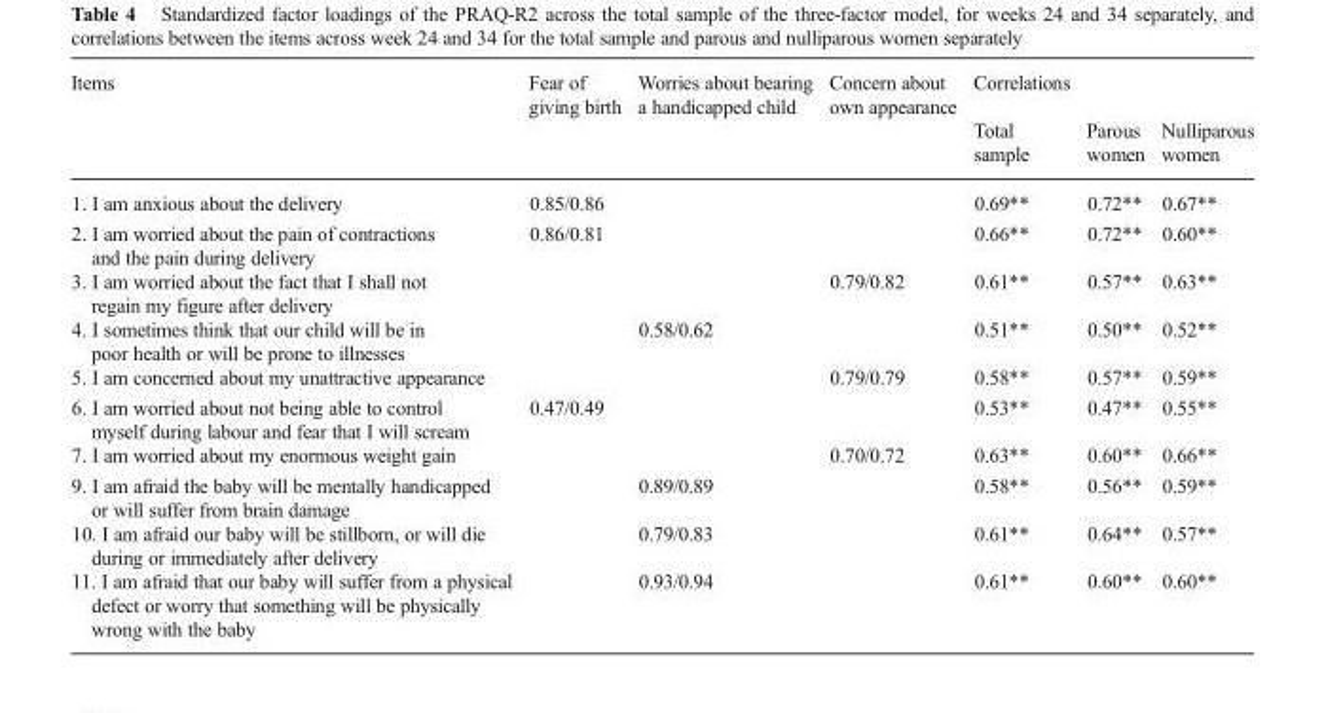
<table><thead><tr><td rowspan="2">Items</td><td rowspan="2">Fear of giving birth</td><td rowspan="2">Worries about bearing a handicapped child</td><td rowspan="2">Concern about own appearance</td><td rowspan="2">Correlations Total sample</td><td rowspan="2">Parous women</td><td rowspan="2">Nulliparous women</td></tr><tr></tr></thead><tbody><tr><td>1. I am anxious about the delivery</td><td>0.85/0.86</td><td></td><td></td><td>0.69**</td><td>0.72**</td><td>0.67**</td></tr><tr><td>2. I am worried about the pain of contractions and the pain during delivery</td><td>0.86/0.81</td><td></td><td></td><td>0.66**</td><td>0.72**</td><td>0.60**</td></tr><tr><td>3. I am worried about the fact that I shall not regain my figure after delivery</td><td></td><td></td><td>0.79/0.82</td><td>0.61**</td><td>0.57**</td><td>0.63**</td></tr><tr><td>4. I sometimes think that our child will be in poor health or will be prone to illnesses</td><td></td><td>0.58/0.62</td><td></td><td>0.51**</td><td>0.50**</td><td>0.52**</td></tr><tr><td>5. I am concerned about my unattractive appearance</td><td></td><td></td><td>0.79/0.79</td><td>0.58**</td><td>0.57**</td><td>0.59**</td></tr><tr><td>6. I am worried about not being able to control myself during labour and fear that I will scream</td><td>0.47/0.49</td><td></td><td></td><td>0.53**</td><td>0.47**</td><td>0.55**</td></tr><tr><td>7. I am worried about my enormous weight gain</td><td></td><td></td><td>0.70/0.72</td><td>0.63**</td><td>0.60**</td><td>0.66**</td></tr><tr><td>9. I am afraid the baby will be mentally handicapped or will suffer from brain damage</td><td></td><td>0.89/0.89</td><td></td><td>0.58**</td><td>0.56**</td><td>0.59**</td></tr><tr><td>10. I am afraid our baby will be stillborn, or will die during or immediately after delivery</td><td></td><td>0.79/0.83</td><td></td><td>0.61**</td><td>0.64**</td><td>0.57**</td></tr><tr><td>11. I am afraid that our baby will suffer from a physical defect or worry that something will be physically wrong with the baby</td><td></td><td>0.93/0.94</td><td></td><td>0.61**</td><td>0.60**</td><td>0.60**</td></tr></tbody></table>